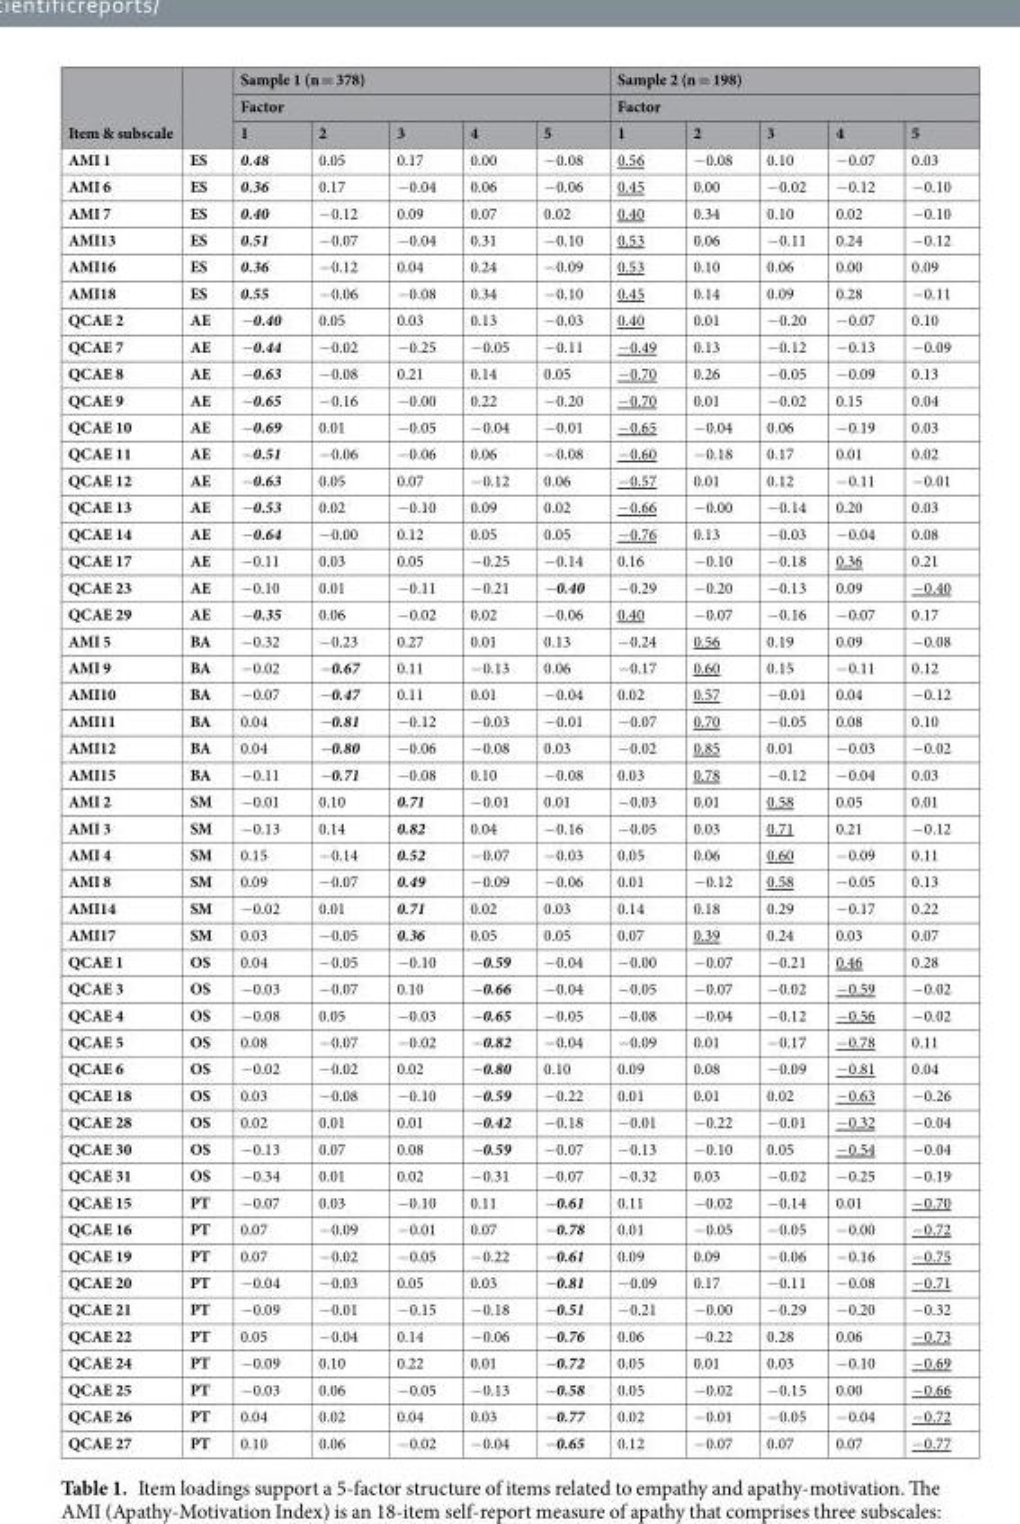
<table><thead><tr><td rowspan="3">Item &amp; subscale</td><td rowspan="3"></td><td rowspan="2" colspan="5">Sample 1 (n = 378) Factor</td><td rowspan="2" colspan="5">Sample 2 (n = 198) Factor</td></tr><tr></tr><tr><td>1</td><td>2</td><td>3</td><td>4</td><td>5</td><td>1</td><td>2</td><td>3</td><td>4</td><td>5</td></tr></thead><tbody><tr><td>AMI 1</td><td>ES</td><td>0.48</td><td>0.05</td><td>0.17</td><td>0.00</td><td>−0.08</td><td>0.56</td><td>−0.08</td><td>0.10</td><td>−0.07</td><td>0.03</td></tr><tr><td>AMI 6</td><td>ES</td><td>0.36</td><td>0.17</td><td>−0.04</td><td>0.06</td><td>−0.06</td><td>0.45</td><td>0.00</td><td>−0.02</td><td>−0.12</td><td>−0.10</td></tr><tr><td>AMI 7</td><td>ES</td><td>0.40</td><td>−0.12</td><td>0.09</td><td>0.07</td><td>0.02</td><td>0.40</td><td>0.34</td><td>0.10</td><td>0.02</td><td>−0.10</td></tr><tr><td>AMI13</td><td>ES</td><td>0.51</td><td>−0.07</td><td>−0.04</td><td>0.31</td><td>−0.10</td><td>0.53</td><td>0.06</td><td>−0.11</td><td>0.24</td><td>−0.12</td></tr><tr><td>AMI16</td><td>ES</td><td>0.36</td><td>−0.12</td><td>0.04</td><td>0.24</td><td>−0.09</td><td>0.53</td><td>0.10</td><td>0.06</td><td>0.00</td><td>0.09</td></tr><tr><td>AMI18</td><td>ES</td><td>0.55</td><td>−0.06</td><td>−0.08</td><td>0.34</td><td>−0.10</td><td>0.45</td><td>0.14</td><td>0.09</td><td>0.28</td><td>−0.11</td></tr><tr><td>QCAE 2</td><td>AE</td><td>−0.40</td><td>0.05</td><td>0.03</td><td>0.13</td><td>−0.03</td><td>0.40</td><td>0.01</td><td>−0.20</td><td>−0.07</td><td>0.10</td></tr><tr><td>QCAE 7</td><td>AE</td><td>−0.44</td><td>−0.02</td><td>−0.25</td><td>−0.05</td><td>−0.11</td><td>−0.49</td><td>0.13</td><td>−0.12</td><td>−0.13</td><td>−0.09</td></tr><tr><td>QCAE 8</td><td>AE</td><td>−0.63</td><td>−0.08</td><td>0.21</td><td>0.14</td><td>0.05</td><td>−0.70</td><td>0.26</td><td>−0.05</td><td>−0.09</td><td>0.13</td></tr><tr><td>QCAE 9</td><td>AE</td><td>−0.65</td><td>−0.16</td><td>−0.00</td><td>0.22</td><td>−0.20</td><td>−0.70</td><td>0.01</td><td>−0.02</td><td>0.15</td><td>0.04</td></tr><tr><td>QCAE 10</td><td>AE</td><td>−0.69</td><td>0.01</td><td>−0.05</td><td>−0.04</td><td>−0.01</td><td>−0.65</td><td>−0.04</td><td>0.06</td><td>−0.19</td><td>0.03</td></tr><tr><td>QCAE 11</td><td>AE</td><td>−0.51</td><td>−0.06</td><td>−0.06</td><td>0.06</td><td>−0.08</td><td>−0.60</td><td>−0.18</td><td>0.17</td><td>0.01</td><td>0.02</td></tr><tr><td>QCAE 12</td><td>AE</td><td>−0.63</td><td>0.05</td><td>0.07</td><td>−0.12</td><td>0.06</td><td>−0.57</td><td>0.01</td><td>0.12</td><td>−0.11</td><td>−0.01</td></tr><tr><td>QCAE 13</td><td>AE</td><td>−0.53</td><td>0.02</td><td>−0.10</td><td>0.09</td><td>0.02</td><td>−0.66</td><td>−0.00</td><td>−0.14</td><td>0.20</td><td>0.03</td></tr><tr><td>QCAE 14</td><td>AE</td><td>−0.64</td><td>−0.00</td><td>0.12</td><td>0.05</td><td>0.05</td><td>−0.76</td><td>0.13</td><td>−0.03</td><td>−0.04</td><td>0.08</td></tr><tr><td>QCAE 17</td><td>AE</td><td>−0.11</td><td>0.03</td><td>0.05</td><td>−0.25</td><td>−0.14</td><td>0.16</td><td>−0.10</td><td>−0.18</td><td>0.36</td><td>0.21</td></tr><tr><td>QCAE 23</td><td>AE</td><td>−0.10</td><td>0.01</td><td>−0.11</td><td>−0.21</td><td>−0.40</td><td>−0.29</td><td>−0.20</td><td>−0.13</td><td>0.09</td><td>−0.40</td></tr><tr><td>QCAE 29</td><td>AE</td><td>−0.35</td><td>0.06</td><td>−0.02</td><td>0.02</td><td>−0.06</td><td>0.40</td><td>−0.07</td><td>−0.16</td><td>−0.07</td><td>0.17</td></tr><tr><td>AMI 5</td><td>BA</td><td>−0.32</td><td>−0.23</td><td>0.27</td><td>0.01</td><td>0.13</td><td>−0.24</td><td>0.56</td><td>0.19</td><td>0.09</td><td>−0.08</td></tr><tr><td>AMI 9</td><td>BA</td><td>−0.02</td><td>−0.67</td><td>0.11</td><td>−0.13</td><td>0.06</td><td>−0.17</td><td>0.60</td><td>0.15</td><td>−0.11</td><td>0.12</td></tr><tr><td>AMI10</td><td>BA</td><td>−0.07</td><td>−0.47</td><td>0.11</td><td>0.01</td><td>−0.04</td><td>0.02</td><td>0.57</td><td>−0.01</td><td>0.04</td><td>−0.12</td></tr><tr><td>AMI11</td><td>BA</td><td>0.04</td><td>−0.81</td><td>−0.12</td><td>−0.03</td><td>−0.01</td><td>−0.07</td><td>0.70</td><td>−0.05</td><td>0.08</td><td>0.10</td></tr><tr><td>AMI12</td><td>BA</td><td>0.04</td><td>−0.80</td><td>−0.06</td><td>−0.08</td><td>0.03</td><td>−0.02</td><td>0.85</td><td>0.01</td><td>−0.03</td><td>−0.02</td></tr><tr><td>AMI15</td><td>BA</td><td>−0.11</td><td>−0.71</td><td>−0.08</td><td>0.10</td><td>−0.08</td><td>0.03</td><td>0.78</td><td>−0.12</td><td>−0.04</td><td>0.03</td></tr><tr><td>AMI 2</td><td>SM</td><td>−0.01</td><td>0.10</td><td>0.71</td><td>−0.01</td><td>0.01</td><td>−0.03</td><td>0.01</td><td>0.58</td><td>0.05</td><td>0.01</td></tr><tr><td>AMI 3</td><td>SM</td><td>−0.13</td><td>0.14</td><td>0.82</td><td>0.04</td><td>−0.16</td><td>−0.05</td><td>0.03</td><td>0.71</td><td>0.21</td><td>−0.12</td></tr><tr><td>AMI 4</td><td>SM</td><td>0.15</td><td>−0.14</td><td>0.52</td><td>−0.07</td><td>−0.03</td><td>0.05</td><td>0.06</td><td>0.60</td><td>−0.09</td><td>0.11</td></tr><tr><td>AMI 8</td><td>SM</td><td>0.09</td><td>−0.07</td><td>0.49</td><td>−0.09</td><td>−0.06</td><td>0.01</td><td>−0.12</td><td>0.58</td><td>−0.05</td><td>0.13</td></tr><tr><td>AMI14</td><td>SM</td><td>−0.02</td><td>0.01</td><td>0.71</td><td>0.02</td><td>0.03</td><td>0.14</td><td>0.18</td><td>0.29</td><td>−0.17</td><td>0.22</td></tr><tr><td>AMI17</td><td>SM</td><td>0.03</td><td>−0.05</td><td>0.36</td><td>0.05</td><td>0.05</td><td>0.07</td><td>0.39</td><td>0.24</td><td>0.03</td><td>0.07</td></tr><tr><td>QCAE 1</td><td>OS</td><td>0.04</td><td>−0.05</td><td>−0.10</td><td>−0.59</td><td>−0.04</td><td>−0.00</td><td>−0.07</td><td>−0.21</td><td>0.46</td><td>0.28</td></tr><tr><td>QCAE 3</td><td>OS</td><td>−0.03</td><td>−0.07</td><td>0.10</td><td>−0.66</td><td>−0.04</td><td>−0.05</td><td>−0.07</td><td>−0.02</td><td>−0.59</td><td>−0.02</td></tr><tr><td>QCAE 4</td><td>OS</td><td>−0.08</td><td>0.05</td><td>−0.03</td><td>−0.65</td><td>−0.05</td><td>−0.08</td><td>−0.04</td><td>−0.12</td><td>−0.56</td><td>−0.02</td></tr><tr><td>QCAE 5</td><td>OS</td><td>0.08</td><td>−0.07</td><td>−0.02</td><td>−0.82</td><td>−0.04</td><td>−0.09</td><td>0.01</td><td>−0.17</td><td>−0.78</td><td>0.11</td></tr><tr><td>QCAE 6</td><td>OS</td><td>−0.02</td><td>−0.02</td><td>0.02</td><td>−0.80</td><td>0.10</td><td>0.09</td><td>0.08</td><td>−0.09</td><td>−0.81</td><td>0.04</td></tr><tr><td>QCAE 18</td><td>OS</td><td>0.03</td><td>−0.08</td><td>−0.10</td><td>−0.59</td><td>−0.22</td><td>0.01</td><td>0.01</td><td>0.02</td><td>−0.63</td><td>−0.26</td></tr><tr><td>QCAE 28</td><td>OS</td><td>0.02</td><td>0.01</td><td>0.01</td><td>−0.42</td><td>−0.18</td><td>−0.01</td><td>−0.22</td><td>−0.01</td><td>−0.32</td><td>−0.04</td></tr><tr><td>QCAE 30</td><td>OS</td><td>−0.13</td><td>0.07</td><td>0.08</td><td>−0.59</td><td>−0.07</td><td>−0.13</td><td>−0.10</td><td>0.05</td><td>−0.54</td><td>−0.04</td></tr><tr><td>QCAE 31</td><td>OS</td><td>−0.34</td><td>0.01</td><td>0.02</td><td>−0.31</td><td>−0.07</td><td>−0.32</td><td>0.03</td><td>−0.02</td><td>−0.25</td><td>−0.19</td></tr><tr><td>QCAE 15</td><td>PT</td><td>−0.07</td><td>0.03</td><td>−0.10</td><td>0.11</td><td>−0.61</td><td>0.11</td><td>−0.02</td><td>−0.14</td><td>0.01</td><td>−0.70</td></tr><tr><td>QCAE 16</td><td>PT</td><td>0.07</td><td>−0.09</td><td>−0.01</td><td>0.07</td><td>−0.78</td><td>0.01</td><td>−0.05</td><td>−0.05</td><td>−0.00</td><td>−0.72</td></tr><tr><td>QCAE 19</td><td>PT</td><td>0.07</td><td>−0.02</td><td>−0.05</td><td>−0.22</td><td>−0.61</td><td>0.09</td><td>0.09</td><td>−0.06</td><td>−0.16</td><td>−0.75</td></tr><tr><td>QCAE 20</td><td>PT</td><td>−0.04</td><td>−0.03</td><td>0.05</td><td>0.03</td><td>−0.81</td><td>−0.09</td><td>0.17</td><td>−0.11</td><td>−0.08</td><td>−0.71</td></tr><tr><td>QCAE 21</td><td>PT</td><td>−0.09</td><td>−0.01</td><td>−0.15</td><td>−0.18</td><td>−0.51</td><td>−0.21</td><td>−0.00</td><td>−0.29</td><td>−0.20</td><td>−0.32</td></tr><tr><td>QCAE 22</td><td>PT</td><td>0.05</td><td>−0.04</td><td>0.14</td><td>−0.06</td><td>−0.76</td><td>0.06</td><td>−0.22</td><td>0.28</td><td>0.06</td><td>−0.73</td></tr><tr><td>QCAE 24</td><td>PT</td><td>−0.09</td><td>0.10</td><td>0.22</td><td>0.01</td><td>−0.72</td><td>0.05</td><td>0.01</td><td>0.03</td><td>−0.10</td><td>−0.69</td></tr><tr><td>QCAE 25</td><td>PT</td><td>−0.03</td><td>0.06</td><td>−0.05</td><td>−0.13</td><td>−0.58</td><td>0.05</td><td>−0.02</td><td>−0.15</td><td>0.00</td><td>−0.66</td></tr><tr><td>QCAE 26</td><td>PT</td><td>0.04</td><td>0.02</td><td>0.04</td><td>0.03</td><td>−0.77</td><td>0.02</td><td>−0.01</td><td>−0.05</td><td>−0.04</td><td>−0.72</td></tr><tr><td>QCAE 27</td><td>PT</td><td>0.10</td><td>0.06</td><td>−0.02</td><td>−0.04</td><td>−0.65</td><td>0.12</td><td>−0.07</td><td>0.07</td><td>0.07</td><td>−0.77</td></tr></tbody></table>